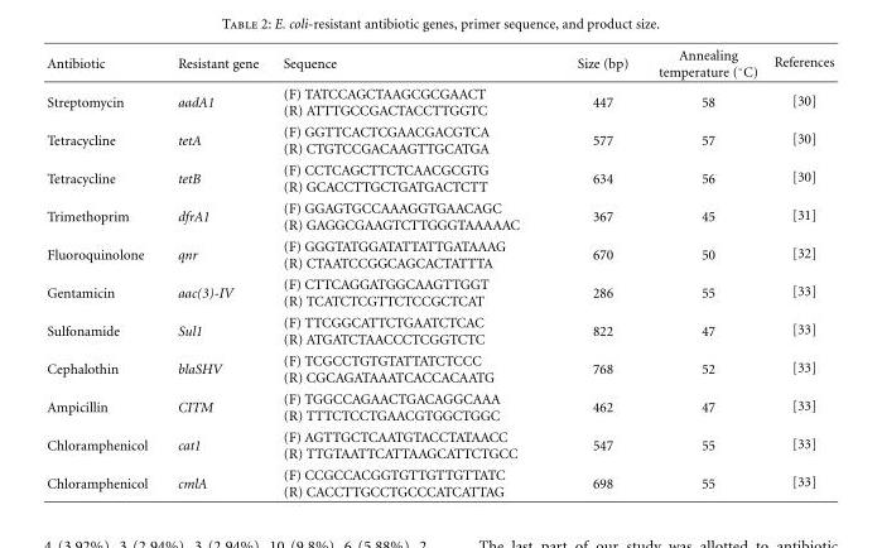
<table><thead><tr><td>Antibiotic</td><td>Resistant gene</td><td>Sequence</td><td>Size (bp)</td><td>Annealing temperature (◦C)</td><td>References</td></tr></thead><tbody><tr><td>Streptomycin</td><td>aadA1</td><td>(F) TATCCAGCTAAGCGCGAACT (R) ATTTGCCGACTACCTTGGTC</td><td>447</td><td>58</td><td>[30]</td></tr><tr><td>Tetracycline</td><td>tetA</td><td>(F) GGTTCACTCGAACGACGTCA (R) CTGTCCGACAAGTTGCATGA</td><td>577</td><td>57</td><td>[30]</td></tr><tr><td>Tetracycline</td><td>tetB</td><td>(F) CCTCAGCTTCTCAACGCGTG (R) GCACCTTGCTGATGACTCTT</td><td>634</td><td>56</td><td>[30]</td></tr><tr><td>Trimethoprim</td><td>dfrA1</td><td>(F) GGAGTGCCAAAGGTGAACAGC (R) GAGGCGAAGTCTTGGGTAAAAAC</td><td>367</td><td>45</td><td>[31]</td></tr><tr><td>Fluoroquinolone</td><td>qnr</td><td>(F) GGGTATGGATATTATTGATAAAG (R) CTAATCCGGCAGCACTATTTA</td><td>670</td><td>50</td><td>[32]</td></tr><tr><td>Gentamicin</td><td>aac(3)-IV</td><td>(F) CTTCAGGATGGCAAGTTGGT (R) TCATCTCGTTCTCCGCTCAT</td><td>286</td><td>55</td><td>[33]</td></tr><tr><td>Sulfonamide</td><td>Sul1</td><td>(F) TTCGGCATTCTGAATCTCAC (R) ATGATCTAACCCTCGGTCTC</td><td>822</td><td>47</td><td>[33]</td></tr><tr><td>Cephalothin</td><td>blaSHV</td><td>(F) TCGCCTGTGTATTATCTCCC (R) CGCAGATAAATCACCACAATG</td><td>768</td><td>52</td><td>[33]</td></tr><tr><td>Ampicillin</td><td>CITM</td><td>(F) TGGCCAGAACTGACAGGCAAA (R) TTTCTCCTGAACGTGGCTGGC</td><td>462</td><td>47</td><td>[33]</td></tr><tr><td>Chloramphenicol</td><td>cat1</td><td>(F) AGTTGCTCAATGTACCTATAACC (R) TTGTAATTCATTAAGCATTCTGCC</td><td>547</td><td>55</td><td>[33]</td></tr><tr><td>Chloramphenicol</td><td>cmlA</td><td>(F) CCGCCACGGTGTTGTTGTTATC (R) CACCTTGCCTGCCCATCATTAG</td><td>698</td><td>55</td><td>[33]</td></tr></tbody></table>